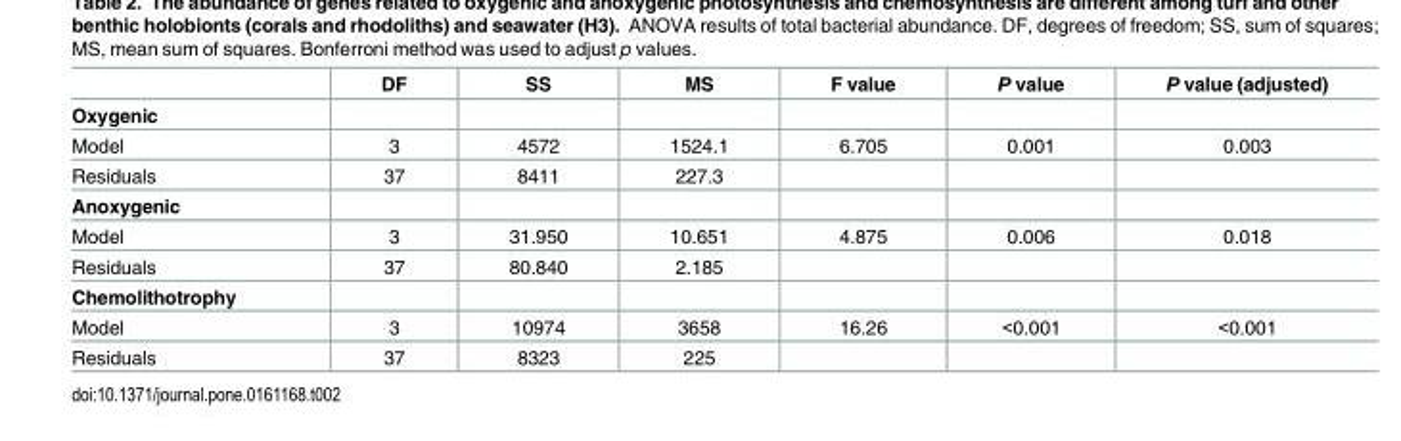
<table><thead><tr><td></td><td>DF</td><td>SS</td><td>MS</td><td>F value</td><td>P value</td><td>P value (adjusted)</td></tr></thead><tbody><tr><td colspan="7">Oxygenic</td></tr><tr><td>Model</td><td>3</td><td>4572</td><td>1524.1</td><td>6.705</td><td>0.001</td><td>0.003</td></tr><tr><td>Residuals</td><td>37</td><td>8411</td><td>227.3</td><td></td><td></td><td></td></tr><tr><td colspan="7">Anoxygenic</td></tr><tr><td>Model</td><td>3</td><td>31.950</td><td>10.651</td><td>4.875</td><td>0.006</td><td>0.018</td></tr><tr><td>Residuals</td><td>37</td><td>80.840</td><td>2.185</td><td></td><td></td><td></td></tr><tr><td colspan="7">Chemolithotrophy</td></tr><tr><td>Model</td><td>3</td><td>10974</td><td>3658</td><td>16.26</td><td>&lt;0.001</td><td>&lt;0.001</td></tr><tr><td>Residuals</td><td>37</td><td>8323</td><td>225</td><td></td><td></td><td></td></tr></tbody></table>